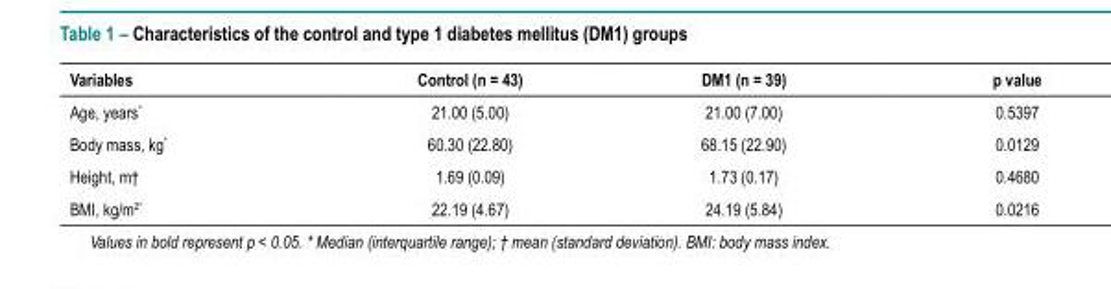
<table><thead><tr><td>Variables</td><td>Control (n = 43)</td><td>DM1 (n = 39)</td><td>p value</td></tr></thead><tbody><tr><td>Age, years*</td><td>21.00 (5.00)</td><td>21.00 (7.00)</td><td>0.5397</td></tr><tr><td>Body mass, kg*</td><td>60.30 (22.80)</td><td>68.15 (22.90)</td><td>0.0129</td></tr><tr><td>Height, m†</td><td>1.69 (0.09)</td><td>1.73 (0.17)</td><td>0.4680</td></tr><tr><td>BMI, kg/m<sup>2</sup>*</td><td>22.19 (4.67)</td><td>24.19 (5.84)</td><td>0.0216</td></tr></tbody></table>